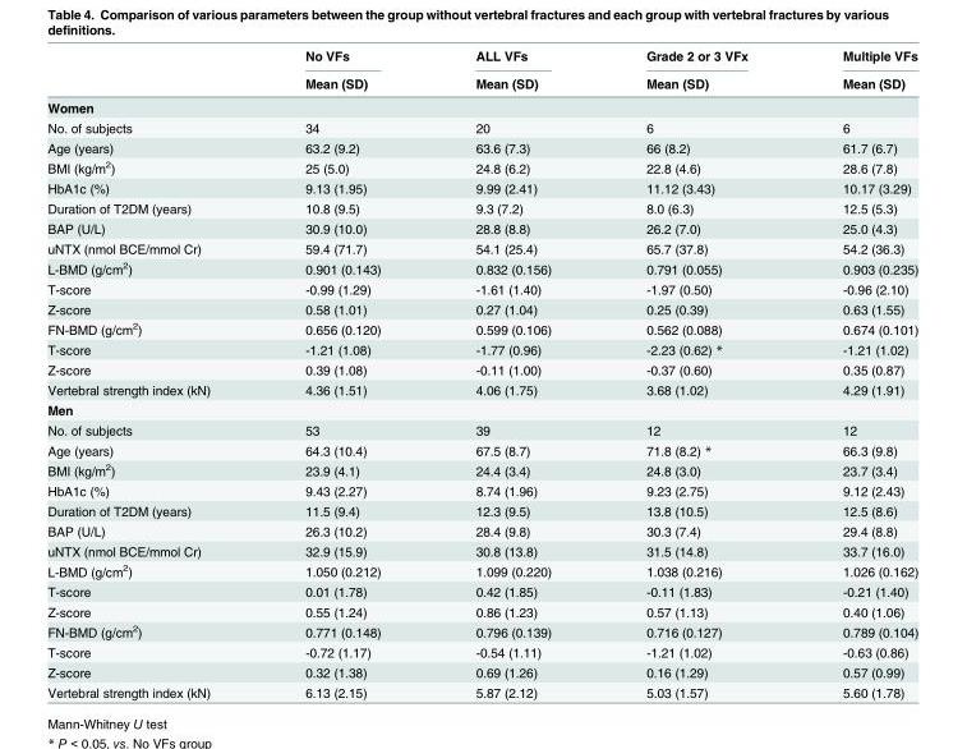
<table><thead><tr><td rowspan="2"></td><td rowspan="2">No VFs Mean (SD)</td><td rowspan="2">ALL VFs Mean (SD)</td><td rowspan="2">Grade 2 or 3 VFx Mean (SD)</td><td rowspan="2">Multiple VFs Mean (SD)</td></tr><tr></tr></thead><tbody><tr><td colspan="5">Women</td></tr><tr><td>No. of subjects</td><td>34</td><td>20</td><td>6</td><td>6</td></tr><tr><td>Age (years)</td><td>63.2 (9.2)</td><td>63.6 (7.3)</td><td>66 (8.2)</td><td>61.7 (6.7)</td></tr><tr><td>BMI (kg/m<sup>2</sup>)</td><td>25 (5.0)</td><td>24.8 (6.2)</td><td>22.8 (4.6)</td><td>28.6 (7.8)</td></tr><tr><td>HbA1c (%)</td><td>9.13 (1.95)</td><td>9.99 (2.41)</td><td>11.12 (3.43)</td><td>10.17 (3.29)</td></tr><tr><td>Duration of T2DM (years)</td><td>10.8 (9.5)</td><td>9.3 (7.2)</td><td>8.0 (6.3)</td><td>12.5 (5.3)</td></tr><tr><td>BAP (U/L)</td><td>30.9 (10.0)</td><td>28.8 (8.8)</td><td>26.2 (7.0)</td><td>25.0 (4.3)</td></tr><tr><td>uNTX (nmol BCE/mmol Cr)</td><td>59.4 (71.7)</td><td>54.1 (25.4)</td><td>65.7 (37.8)</td><td>54.2 (36.3)</td></tr><tr><td>L-BMD (g/cm<sup>2</sup>)</td><td>0.901 (0.143)</td><td>0.832 (0.156)</td><td>0.791 (0.055)</td><td>0.903 (0.235)</td></tr><tr><td>T-score</td><td>-0.99 (1.29)</td><td>-1.61 (1.40)</td><td>-1.97 (0.50)</td><td>-0.96 (2.10)</td></tr><tr><td>Z-score</td><td>0.58 (1.01)</td><td>0.27 (1.04)</td><td>0.25 (0.39)</td><td>0.63 (1.55)</td></tr><tr><td>FN-BMD (g/cm<sup>2</sup>)</td><td>0.656 (0.120)</td><td>0.599 (0.106)</td><td>0.562 (0.088)</td><td>0.674 (0.101)</td></tr><tr><td>T-score</td><td>-1.21 (1.08)</td><td>-1.77 (0.96)</td><td>-2.23 (0.62) *</td><td>-1.21 (1.02)</td></tr><tr><td>Z-score</td><td>0.39 (1.08)</td><td>-0.11 (1.00)</td><td>-0.37 (0.60)</td><td>0.35 (0.87)</td></tr><tr><td>Vertebral strength index (kN)</td><td>4.36 (1.51)</td><td>4.06 (1.75)</td><td>3.68 (1.02)</td><td>4.29 (1.91)</td></tr><tr><td colspan="5">Men</td></tr><tr><td>No. of subjects</td><td>53</td><td>39</td><td>12</td><td>12</td></tr><tr><td>Age (years)</td><td>64.3 (10.4)</td><td>67.5 (8.7)</td><td>71.8 (8.2) *</td><td>66.3 (9.8)</td></tr><tr><td>BMI (kg/m<sup>2</sup>)</td><td>23.9 (4.1)</td><td>24.4 (3.4)</td><td>24.8 (3.0)</td><td>23.7 (3.4)</td></tr><tr><td>HbA1c (%)</td><td>9.43 (2.27)</td><td>8.74 (1.96)</td><td>9.23 (2.75)</td><td>9.12 (2.43)</td></tr><tr><td>Duration of T2DM (years)</td><td>11.5 (9.4)</td><td>12.3 (9.5)</td><td>13.8 (10.5)</td><td>12.5 (8.6)</td></tr><tr><td>BAP (U/L)</td><td>26.3 (10.2)</td><td>28.4 (9.8)</td><td>30.3 (7.4)</td><td>29.4 (8.8)</td></tr><tr><td>uNTX (nmol BCE/mmol Cr)</td><td>32.9 (15.9)</td><td>30.8 (13.8)</td><td>31.5 (14.8)</td><td>33.7 (16.0)</td></tr><tr><td>L-BMD (g/cm<sup>2</sup>)</td><td>1.050 (0.212)</td><td>1.099 (0.220)</td><td>1.038 (0.216)</td><td>1.026 (0.162)</td></tr><tr><td>T-score</td><td>0.01 (1.78)</td><td>0.42 (1.85)</td><td>-0.11 (1.83)</td><td>-0.21 (1.40)</td></tr><tr><td>Z-score</td><td>0.55 (1.24)</td><td>0.86 (1.23)</td><td>0.57 (1.13)</td><td>0.40 (1.06)</td></tr><tr><td>FN-BMD (g/cm<sup>2</sup>)</td><td>0.771 (0.148)</td><td>0.796 (0.139)</td><td>0.716 (0.127)</td><td>0.789 (0.104)</td></tr><tr><td>T-score</td><td>-0.72 (1.17)</td><td>-0.54 (1.11)</td><td>-1.21 (1.02)</td><td>-0.63 (0.86)</td></tr><tr><td>Z-score</td><td>0.32 (1.38)</td><td>0.69 (1.26)</td><td>0.16 (1.29)</td><td>0.57 (0.99)</td></tr><tr><td>Vertebral strength index (kN)</td><td>6.13 (2.15)</td><td>5.87 (2.12)</td><td>5.03 (1.57)</td><td>5.60 (1.78)</td></tr></tbody></table>